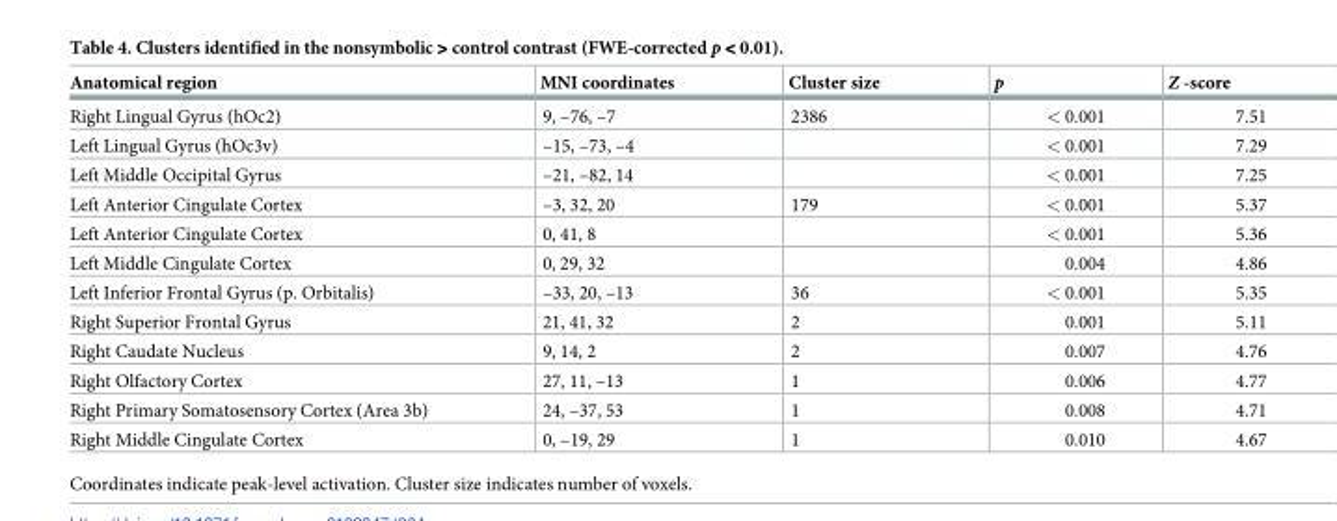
<table><thead><tr><td>Anatomical region</td><td>MNI coordinates</td><td>Cluster size</td><td>p</td><td>Z -score</td></tr></thead><tbody><tr><td>Right Lingual Gyrus (hOc2)</td><td>9, –76, –7</td><td>2386</td><td>&lt; 0.001</td><td>7.51</td></tr><tr><td>Left Lingual Gyrus (hOc3v)</td><td>–15, –73, –4</td><td></td><td>&lt; 0.001</td><td>7.29</td></tr><tr><td>Left Middle Occipital Gyrus</td><td>–21, –82, 14</td><td></td><td>&lt; 0.001</td><td>7.25</td></tr><tr><td>Left Anterior Cingulate Cortex</td><td>–3, 32, 20</td><td>179</td><td>&lt; 0.001</td><td>5.37</td></tr><tr><td>Left Anterior Cingulate Cortex</td><td>0, 41, 8</td><td></td><td>&lt; 0.001</td><td>5.36</td></tr><tr><td>Left Middle Cingulate Cortex</td><td>0, 29, 32</td><td></td><td>0.004</td><td>4.86</td></tr><tr><td>Left Inferior Frontal Gyrus (p. Orbitalis)</td><td>–33, 20, –13</td><td>36</td><td>&lt; 0.001</td><td>5.35</td></tr><tr><td>Right Superior Frontal Gyrus</td><td>21, 41, 32</td><td>2</td><td>0.001</td><td>5.11</td></tr><tr><td>Right Caudate Nucleus</td><td>9, 14, 2</td><td>2</td><td>0.007</td><td>4.76</td></tr><tr><td>Right Olfactory Cortex</td><td>27, 11, –13</td><td>1</td><td>0.006</td><td>4.77</td></tr><tr><td>Right Primary Somatosensory Cortex (Area 3b)</td><td>24, –37, 53</td><td>1</td><td>0.008</td><td>4.71</td></tr><tr><td>Right Middle Cingulate Cortex</td><td>0, –19, 29</td><td>1</td><td>0.010</td><td>4.67</td></tr></tbody></table>